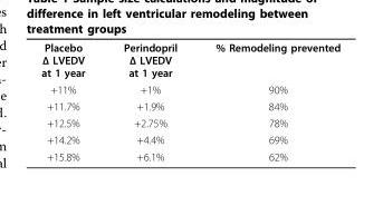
<table><tbody><tr><td>Placebo Δ LVEDV at 1 year</td><td>Perindopril Δ LVEDV at 1 year</td><td>% Remodeling prevented</td></tr><tr><td>+11%</td><td>+1%</td><td>90%</td></tr><tr><td>+11.7%</td><td>+1.9%</td><td>84%</td></tr><tr><td>+12.5%</td><td>+2.75%</td><td>78%</td></tr><tr><td>+14.2%</td><td>+4.4%</td><td>69%</td></tr><tr><td>+15.8%</td><td>+6.1%</td><td>62%</td></tr></tbody></table>